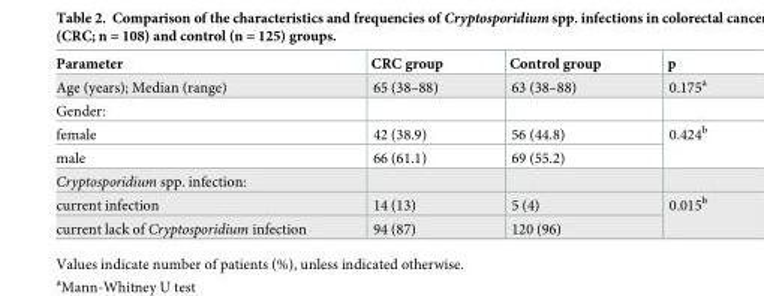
<table><thead><tr><td>Parameter</td><td>CRC group</td><td>Control group</td><td>p</td></tr></thead><tbody><tr><td>Age (years); Median (range)</td><td>65 (38–88)</td><td>63 (38–88)</td><td>0.175<sup>a</sup></td></tr><tr><td colspan="4">Gender:</td></tr><tr><td>female</td><td>42 (38.9)</td><td>56 (44.8)</td><td rowspan="2">0.424<sup>b</sup></td></tr><tr><td>male</td><td>66 (61.1)</td><td>69 (55.2)</td></tr><tr><td colspan="4">Cryptosporidium spp. infection:</td></tr><tr><td>current infection</td><td>14 (13)</td><td>5 (4)</td><td rowspan="2">0.015<sup>b</sup></td></tr><tr><td>current lack of Cryptosporidium infection</td><td>94 (87)</td><td>120 (96)</td></tr></tbody></table>